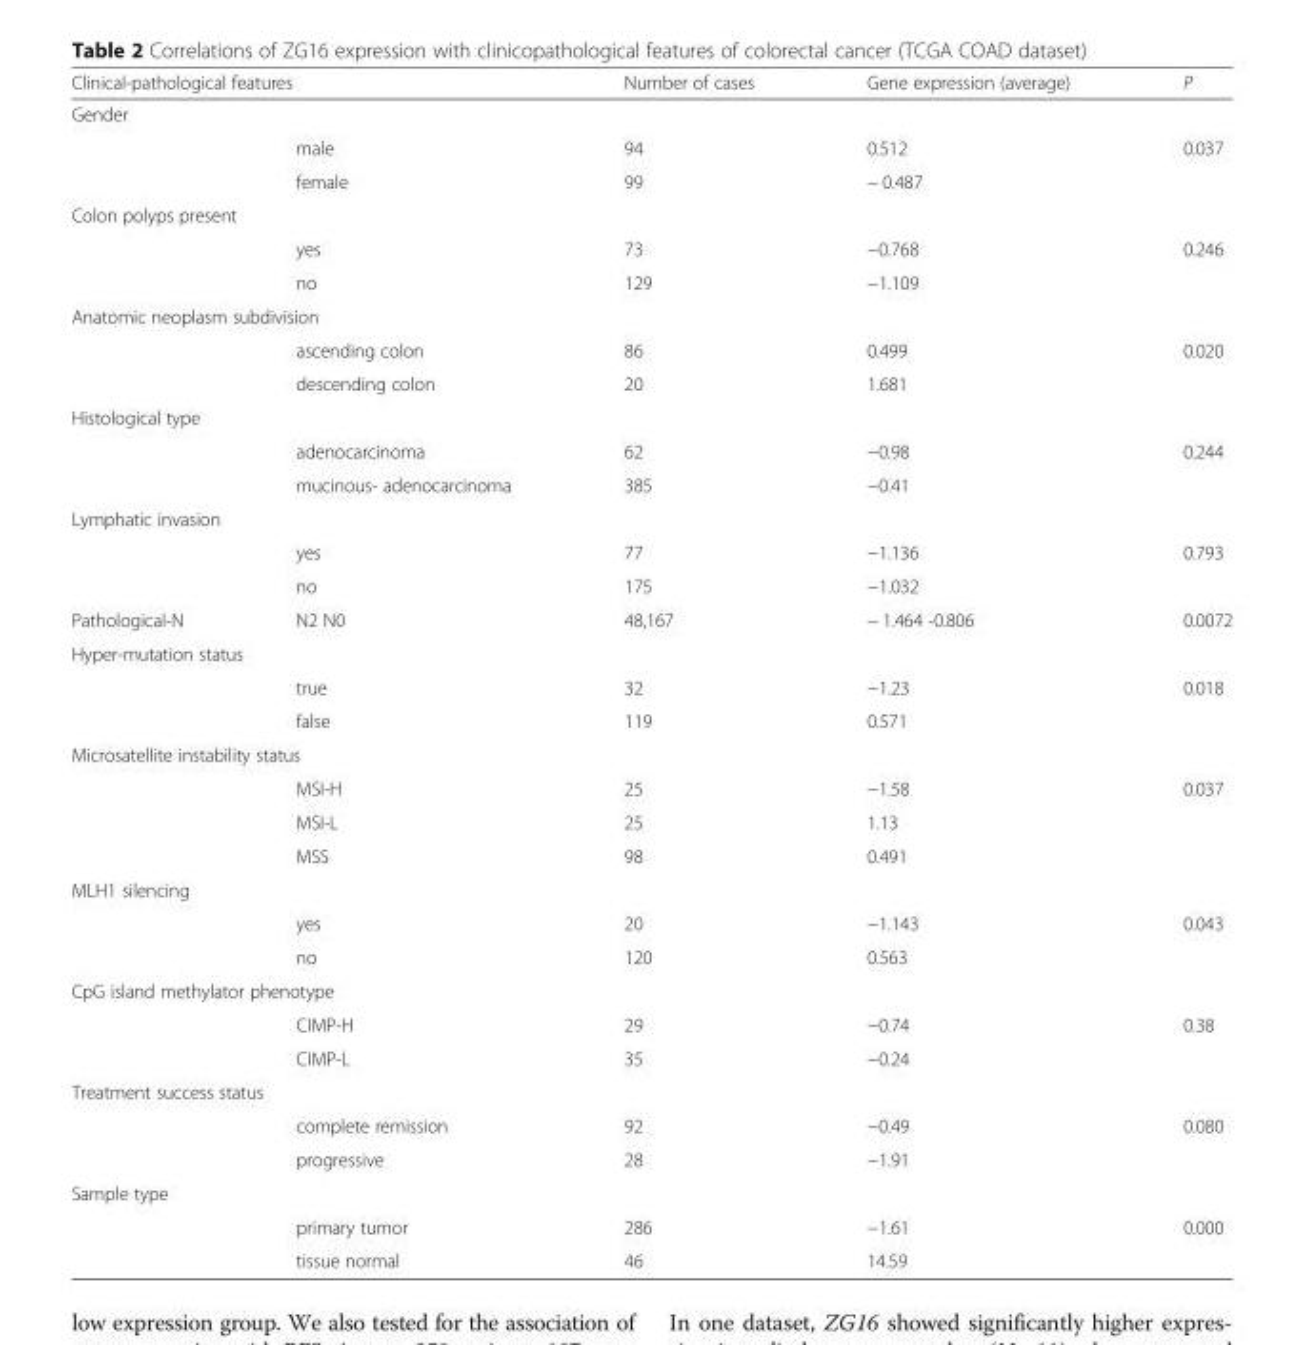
<table><thead><tr><td colspan="2">Clinical-pathological features</td><td>Number of cases</td><td>Gene expression (average)</td><td>P</td></tr><tr><td colspan="5">Gender</td></tr><tr><td></td><td>male</td><td>94</td><td>0.512</td><td>0.037</td></tr></thead><tbody><tr><td></td><td>female</td><td>99</td><td>− 0.487</td><td></td></tr><tr><td colspan="5">Colon polyps present</td></tr><tr><td></td><td>yes</td><td>73</td><td>−0.768</td><td>0.246</td></tr><tr><td></td><td>no</td><td>129</td><td>−1.109</td><td></td></tr><tr><td colspan="5">Anatomic neoplasm subdivision</td></tr><tr><td></td><td>ascending colon</td><td>86</td><td>0.499</td><td>0.020</td></tr><tr><td></td><td>descending colon</td><td>20</td><td>1.681</td><td></td></tr><tr><td colspan="5">Histological type</td></tr><tr><td></td><td>adenocarcinoma</td><td>62</td><td>−0.98</td><td>0.244</td></tr><tr><td></td><td>mucinous- adenocarcinoma</td><td>385</td><td>−0.41</td><td></td></tr><tr><td colspan="5">Lymphatic invasion</td></tr><tr><td></td><td>yes</td><td>77</td><td>−1.136</td><td>0.793</td></tr><tr><td></td><td>no</td><td>175</td><td>−1.032</td><td></td></tr><tr><td>Pathological-N</td><td>N2 N0</td><td>48,167</td><td>− 1.464 -0.806</td><td>0.0072</td></tr><tr><td colspan="5">Hyper-mutation status</td></tr><tr><td></td><td>true</td><td>32</td><td>−1.23</td><td>0.018</td></tr><tr><td></td><td>false</td><td>119</td><td>0.571</td><td></td></tr><tr><td colspan="5">Microsatellite instability status</td></tr><tr><td></td><td>MSI-H</td><td>25</td><td>−1.58</td><td>0.037</td></tr><tr><td></td><td>MSI-L</td><td>25</td><td>1.13</td><td></td></tr><tr><td></td><td>MSS</td><td>98</td><td>0.491</td><td></td></tr><tr><td colspan="5">MLH1 silencing</td></tr><tr><td></td><td>yes</td><td>20</td><td>−1.143</td><td>0.043</td></tr><tr><td></td><td>no</td><td>120</td><td>0.563</td><td></td></tr><tr><td colspan="5">CpG island methylator phenotype</td></tr><tr><td></td><td>CIMP-H</td><td>29</td><td>−0.74</td><td>0.38</td></tr><tr><td></td><td>CIMP-L</td><td>35</td><td>−0.24</td><td></td></tr><tr><td colspan="5">Treatment success status</td></tr><tr><td></td><td>complete remission</td><td>92</td><td>−0.49</td><td>0.080</td></tr><tr><td></td><td>progressive</td><td>28</td><td>−1.91</td><td></td></tr><tr><td colspan="5">Sample type</td></tr><tr><td></td><td>primary tumor</td><td>286</td><td>−1.61</td><td>0.000</td></tr><tr><td></td><td>tissue normal</td><td>46</td><td>14.59</td><td></td></tr></tbody></table>